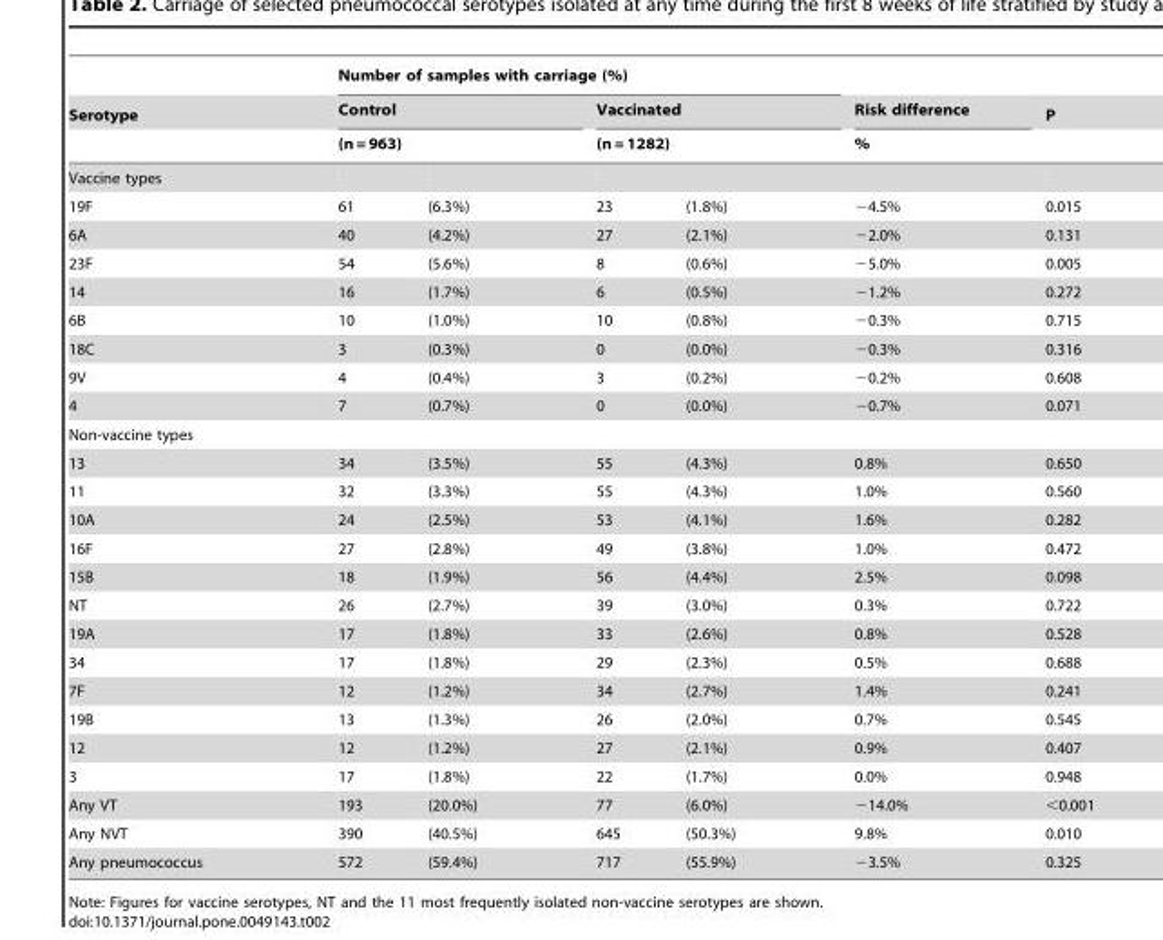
<table><thead><tr><td rowspan="4">Serotype Vaccine types</td><td colspan="4">Number of samples with carriage (%)</td><td rowspan="4">Risk difference %</td><td rowspan="4">P</td></tr><tr><td rowspan="2" colspan="2">Control (n = 963)</td><td rowspan="2" colspan="2">Vaccinated (n = 1282)</td></tr><tr></tr><tr><td></td><td></td><td></td><td></td></tr></thead><tbody><tr><td>19F</td><td>61</td><td>(6.3%)</td><td>23</td><td>(1.8%)</td><td>−4.5%</td><td>0.015</td></tr><tr><td>6A</td><td>40</td><td>(4.2%)</td><td>27</td><td>(2.1%)</td><td>−2.0%</td><td>0.131</td></tr><tr><td>23F</td><td>54</td><td>(5.6%)</td><td>8</td><td>(0.6%)</td><td>−5.0%</td><td>0.005</td></tr><tr><td>14</td><td>16</td><td>(1.7%)</td><td>6</td><td>(0.5%)</td><td>−1.2%</td><td>0.272</td></tr><tr><td>6B</td><td>10</td><td>(1.0%)</td><td>10</td><td>(0.8%)</td><td>−0.3%</td><td>0.715</td></tr><tr><td>18C</td><td>3</td><td>(0.3%)</td><td>0</td><td>(0.0%)</td><td>−0.3%</td><td>0.316</td></tr><tr><td>9V</td><td>4</td><td>(0.4%)</td><td>3</td><td>(0.2%)</td><td>−0.2%</td><td>0.608</td></tr><tr><td>4</td><td>7</td><td>(0.7%)</td><td>0</td><td>(0.0%)</td><td>−0.7%</td><td>0.071</td></tr><tr><td colspan="7">Non-vaccine types</td></tr><tr><td>13</td><td>34</td><td>(3.5%)</td><td>55</td><td>(4.3%)</td><td>0.8%</td><td>0.650</td></tr><tr><td>11</td><td>32</td><td>(3.3%)</td><td>55</td><td>(4.3%)</td><td>1.0%</td><td>0.560</td></tr><tr><td>10A</td><td>24</td><td>(2.5%)</td><td>53</td><td>(4.1%)</td><td>1.6%</td><td>0.282</td></tr><tr><td>16F</td><td>27</td><td>(2.8%)</td><td>49</td><td>(3.8%)</td><td>1.0%</td><td>0.472</td></tr><tr><td>15B</td><td>18</td><td>(1.9%)</td><td>56</td><td>(4.4%)</td><td>2.5%</td><td>0.098</td></tr><tr><td>NT</td><td>26</td><td>(2.7%)</td><td>39</td><td>(3.0%)</td><td>0.3%</td><td>0.722</td></tr><tr><td>19A</td><td>17</td><td>(1.8%)</td><td>33</td><td>(2.6%)</td><td>0.8%</td><td>0.528</td></tr><tr><td>34</td><td>17</td><td>(1.8%)</td><td>29</td><td>(2.3%)</td><td>0.5%</td><td>0.688</td></tr><tr><td>7F</td><td>12</td><td>(1.2%)</td><td>34</td><td>(2.7%)</td><td>1.4%</td><td>0.241</td></tr><tr><td>19B</td><td>13</td><td>(1.3%)</td><td>26</td><td>(2.0%)</td><td>0.7%</td><td>0.545</td></tr><tr><td>12</td><td>12</td><td>(1.2%)</td><td>27</td><td>(2.1%)</td><td>0.9%</td><td>0.407</td></tr><tr><td>3</td><td>17</td><td>(1.8%)</td><td>22</td><td>(1.7%)</td><td>0.0%</td><td>0.948</td></tr><tr><td>Any VT</td><td>193</td><td>(20.0%)</td><td>77</td><td>(6.0%)</td><td>−14.0%</td><td>&lt;0.001</td></tr><tr><td>Any NVT</td><td>390</td><td>(40.5%)</td><td>645</td><td>(50.3%)</td><td>9.8%</td><td>0.010</td></tr><tr><td>Any pneumococcus</td><td>572</td><td>(59.4%)</td><td>717</td><td>(55.9%)</td><td>−3.5%</td><td>0.325</td></tr></tbody></table>